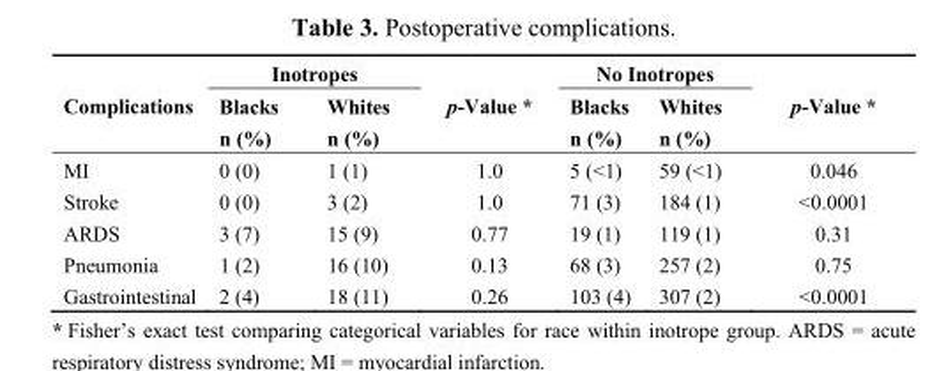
<table><thead><tr><td rowspan="2">Complications</td><td colspan="2">Inotropes</td><td rowspan="2">p-Value *</td><td colspan="2">No Inotropes</td><td rowspan="2">p-Value *</td></tr><tr><td>Blacks n (%)</td><td>Whites n (%)</td><td>Blacks n (%)</td><td>Whites n (%)</td></tr></thead><tbody><tr><td>MI</td><td>0 (0)</td><td>1 (1)</td><td>1.0</td><td>5 (&lt;1)</td><td>59 (&lt;1)</td><td>0.046</td></tr><tr><td>Stroke</td><td>0 (0)</td><td>3 (2)</td><td>1.0</td><td>71 (3)</td><td>184 (1)</td><td>&lt;0.0001</td></tr><tr><td>ARDS</td><td>3 (7)</td><td>15 (9)</td><td>0.77</td><td>19 (1)</td><td>119 (1)</td><td>0.31</td></tr><tr><td>Pneumonia</td><td>1 (2)</td><td>16 (10)</td><td>0.13</td><td>68 (3)</td><td>257 (2)</td><td>0.75</td></tr><tr><td>Gastrointestinal</td><td>2 (4)</td><td>18 (11)</td><td>0.26</td><td>103 (4)</td><td>307 (2)</td><td>&lt;0.0001</td></tr></tbody></table>